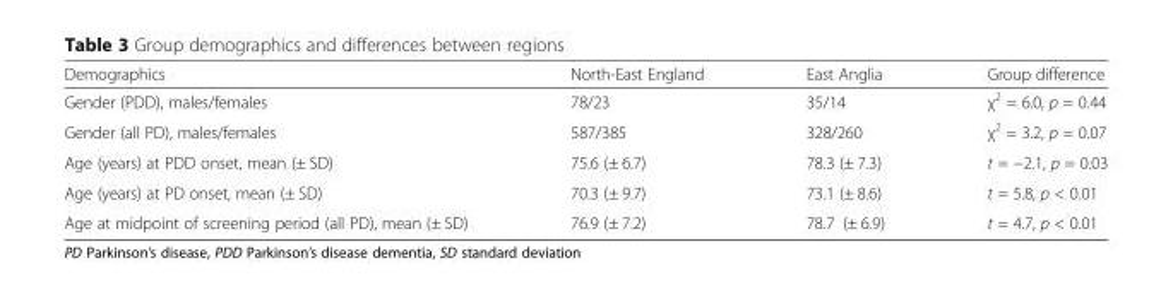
<table><thead><tr><td>Demographics</td><td>North-East England</td><td>East Anglia</td><td>Group difference</td></tr></thead><tbody><tr><td>Gender (PDD), males/females</td><td>78/23</td><td>35/14</td><td>χ<sup>2</sup> = 6.0, p = 0.44</td></tr><tr><td>Gender (all PD), males/females</td><td>587/385</td><td>328/260</td><td>χ<sup>2</sup> = 3.2, p = 0.07</td></tr><tr><td>Age (years) at PDD onset, mean (± SD)</td><td>75.6 (± 6.7)</td><td>78.3 (± 7.3)</td><td>t = −2.1, p = 0.03</td></tr><tr><td>Age (years) at PD onset, mean (± SD)</td><td>70.3 (± 9.7)</td><td>73.1 (± 8.6)</td><td>t = 5.8, p &lt; 0.01</td></tr><tr><td>Age at midpoint of screening period (all PD), mean (± SD)</td><td>76.9 (± 7.2)</td><td>78.7 (± 6.9)</td><td>t = 4.7, p &lt; 0.01</td></tr></tbody></table>